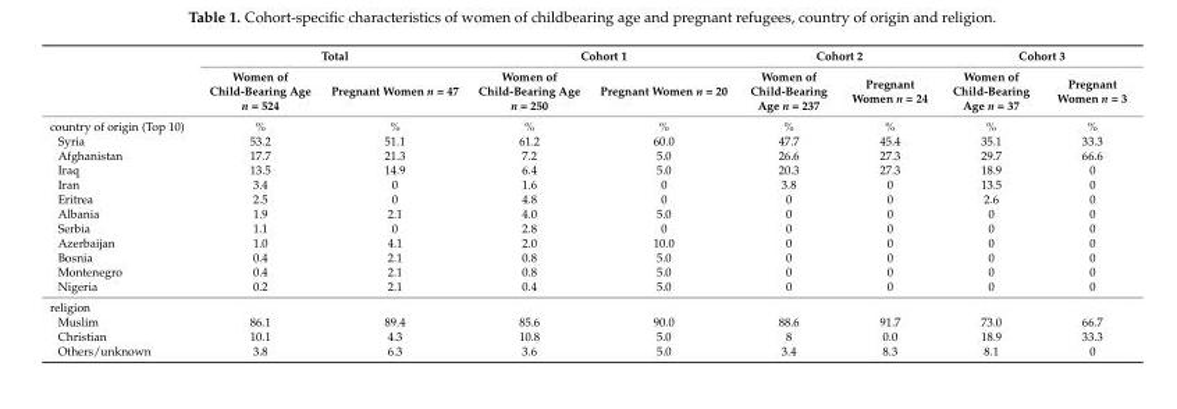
<table><thead><tr><td rowspan="2"></td><td colspan="2">Total</td><td colspan="2">Cohort 1</td><td colspan="2">Cohort 2</td><td colspan="2">Cohort 3</td></tr><tr><td>Women of Child-Bearing Age n = 524</td><td>Pregnant Women n = 47</td><td>Women of Child-Bearing Age n = 250</td><td>Pregnant Women n = 20</td><td>Women of Child-Bearing Age n = 237</td><td>Pregnant Women n = 24</td><td>Women of Child-Bearing Age n = 37</td><td>Pregnant Women n = 3</td></tr></thead><tbody><tr><td>country of origin (Top 10)</td><td>%</td><td>%</td><td>%</td><td>%</td><td>%</td><td>%</td><td>%</td><td>%</td></tr><tr><td>Syria</td><td>53.2</td><td>51.1</td><td>61.2</td><td>60.0</td><td>47.7</td><td>45.4</td><td>35.1</td><td>33.3</td></tr><tr><td>Afghanistan</td><td>17.7</td><td>21.3</td><td>7.2</td><td>5.0</td><td>26.6</td><td>27.3</td><td>29.7</td><td>66.6</td></tr><tr><td>Iraq</td><td>13.5</td><td>14.9</td><td>6.4</td><td>5.0</td><td>20.3</td><td>27.3</td><td>18.9</td><td>0</td></tr><tr><td>Iran</td><td>3.4</td><td>0</td><td>1.6</td><td>0</td><td>3.8</td><td>0</td><td>13.5</td><td>0</td></tr><tr><td>Eritrea</td><td>2.5</td><td>0</td><td>4.8</td><td>0</td><td>0</td><td>0</td><td>2.6</td><td>0</td></tr><tr><td>Albania</td><td>1.9</td><td>2.1</td><td>4.0</td><td>5.0</td><td>0</td><td>0</td><td>0</td><td>0</td></tr><tr><td>Serbia</td><td>1.1</td><td>0</td><td>2.8</td><td>0</td><td>0</td><td>0</td><td>0</td><td>0</td></tr><tr><td>Azerbaijan</td><td>1.0</td><td>4.1</td><td>2.0</td><td>10.0</td><td>0</td><td>0</td><td>0</td><td>0</td></tr><tr><td>Bosnia</td><td>0.4</td><td>2.1</td><td>0.8</td><td>5.0</td><td>0</td><td>0</td><td>0</td><td>0</td></tr><tr><td>Montenegro</td><td>0.4</td><td>2.1</td><td>0.8</td><td>5.0</td><td>0</td><td>0</td><td>0</td><td>0</td></tr><tr><td>Nigeria</td><td>0.2</td><td>2.1</td><td>0.4</td><td>5.0</td><td>0</td><td>0</td><td>0</td><td>0</td></tr><tr><td colspan="9">religion</td></tr><tr><td>Muslim</td><td>86.1</td><td>89.4</td><td>85.6</td><td>90.0</td><td>88.6</td><td>91.7</td><td>73.0</td><td>66.7</td></tr><tr><td>Christian</td><td>10.1</td><td>4.3</td><td>10.8</td><td>5.0</td><td>8</td><td>0.0</td><td>18.9</td><td>33.3</td></tr><tr><td>Others/unknown</td><td>3.8</td><td>6.3</td><td>3.6</td><td>5.0</td><td>3.4</td><td>8.3</td><td>8.1</td><td>0</td></tr></tbody></table>